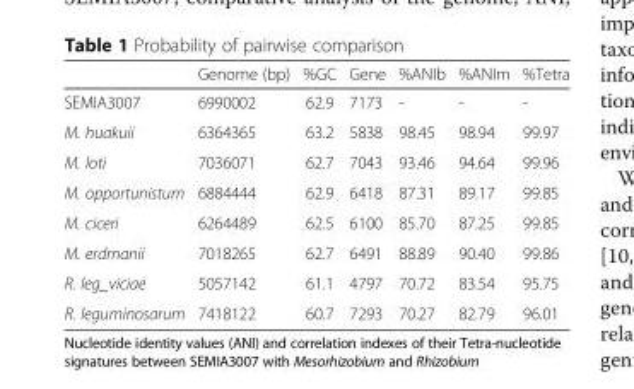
<table><thead><tr><td></td><td>Genome (bp)</td><td>%GC</td><td>Gene</td><td>%ANIb</td><td>%ANIm</td><td>%Tetra</td></tr></thead><tbody><tr><td>SEMIA3007</td><td>6990002</td><td>62.9</td><td>7173</td><td>-</td><td>-</td><td>-</td></tr><tr><td>M. huakuii</td><td>6364365</td><td>63.2</td><td>5838</td><td>98.45</td><td>98.94</td><td>99.97</td></tr><tr><td>M. loti</td><td>7036071</td><td>62.7</td><td>7043</td><td>93.46</td><td>94.64</td><td>99.96</td></tr><tr><td>M. opportunistum</td><td>6884444</td><td>62.9</td><td>6418</td><td>87.31</td><td>89.17</td><td>99.85</td></tr><tr><td>M. ciceri</td><td>6264489</td><td>62.5</td><td>6100</td><td>85.70</td><td>87.25</td><td>99.85</td></tr><tr><td>M. erdmanii</td><td>7018265</td><td>62.7</td><td>6491</td><td>88.89</td><td>90.40</td><td>99.86</td></tr><tr><td>R. leg_viciae</td><td>5057142</td><td>61.1</td><td>4797</td><td>70.72</td><td>83.54</td><td>95.75</td></tr><tr><td>R. leguminosarum</td><td>7418122</td><td>60.7</td><td>7293</td><td>70.27</td><td>82.79</td><td>96.01</td></tr></tbody></table>